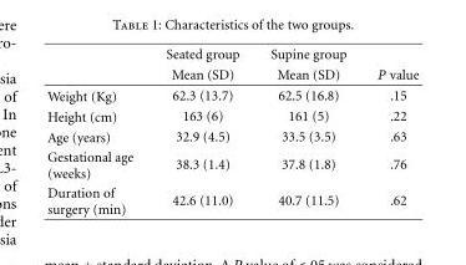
<table><thead><tr><td rowspan="2"></td><td rowspan="2">Seated group Mean (SD)</td><td rowspan="2">Supine group Mean (SD)</td><td rowspan="2">P value</td></tr><tr></tr></thead><tbody><tr><td>Weight (Kg)</td><td>62.3 (13.7)</td><td>62.5 (16.8)</td><td>.15</td></tr><tr><td>Height (cm)</td><td>163 (6)</td><td>161 (5)</td><td>.22</td></tr><tr><td>Age (years)</td><td>32.9 (4.5)</td><td>33.5 (3.5)</td><td>.63</td></tr><tr><td>Gestational age (weeks)</td><td>38.3 (1.4)</td><td>37.8 (1.8)</td><td>.76</td></tr><tr><td>Duration of surgery (min)</td><td>42.6 (11.0)</td><td>40.7 (11.5)</td><td>.62</td></tr></tbody></table>